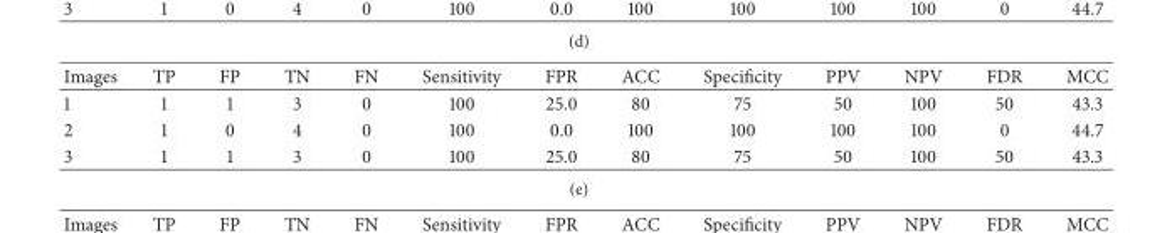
<table><thead><tr><td>Images</td><td>TP</td><td>FP</td><td>TN</td><td>FN</td><td>Sensitivity</td><td>FPR</td><td>ACC</td><td>Specificity</td><td>PPV</td><td>NPV</td><td>FDR</td><td>MCC</td></tr></thead><tbody><tr><td>1</td><td>1</td><td>1</td><td>3</td><td>0</td><td>100</td><td>25.0</td><td>80</td><td>75</td><td>50</td><td>100</td><td>50</td><td>43.3</td></tr><tr><td>2</td><td>1</td><td>0</td><td>4</td><td>0</td><td>100</td><td>0.0</td><td>100</td><td>100</td><td>100</td><td>100</td><td>0</td><td>44.7</td></tr><tr><td>3</td><td>1</td><td>1</td><td>3</td><td>0</td><td>100</td><td>25.0</td><td>80</td><td>75</td><td>50</td><td>100</td><td>50</td><td>43.3</td></tr></tbody></table>